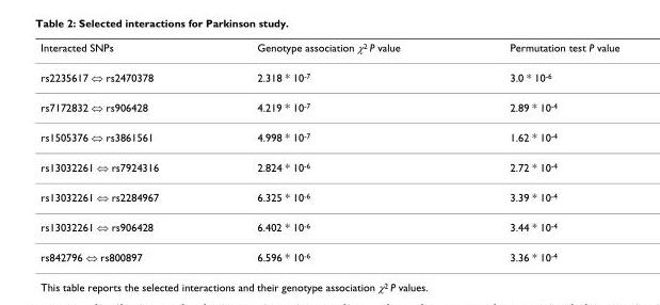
<table><thead><tr><td>Interacted SNPs</td><td>Genotype association χ<sup>2</sup> P value</td><td>Permutation test P value</td></tr></thead><tbody><tr><td>rs2235617 ⇔ rs2470378</td><td>2.318 * 10<sup>-7</sup></td><td>3.0 * 10<sup>-6</sup></td></tr><tr><td>rs7172832 ⇔ rs906428</td><td>4.219 * 10<sup>-7</sup></td><td>2.89 * 10<sup>-4</sup></td></tr><tr><td>rs1505376 ⇔ rs3861561</td><td>4.998 * 10<sup>-7</sup></td><td>1.62 * 10<sup>-4</sup></td></tr><tr><td>rs13032261 ⇔ rs7924316</td><td>2.824 * 10<sup>-6</sup></td><td>2.72 * 10<sup>-4</sup></td></tr><tr><td>rs13032261 ⇔ rs2284967</td><td>6.325 * 10<sup>-6</sup></td><td>3.39 * 10<sup>-4</sup></td></tr><tr><td>rs13032261 ⇔ rs906428</td><td>6.402 * 10<sup>-6</sup></td><td>3.44 * 10<sup>-4</sup></td></tr><tr><td>rs842796 ⇔ rs800897</td><td>6.596 * 10<sup>-6</sup></td><td>3.36 * 10<sup>-4</sup></td></tr></tbody></table>